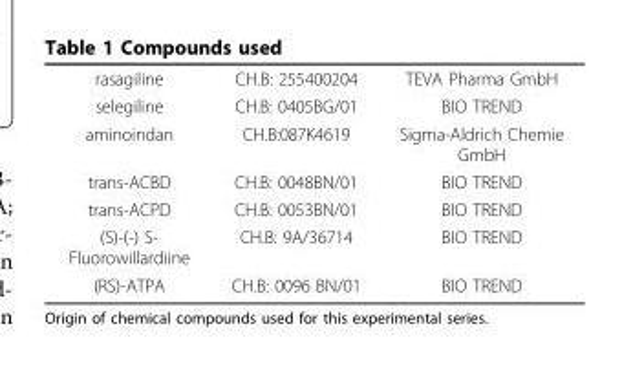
<table><tbody><tr><td>rasagiline</td><td>CH.B: 255400204</td><td>TEVA Pharma GmbH</td></tr><tr><td>selegiline</td><td>CH.B: 0405BG/01</td><td>BIO TREND</td></tr><tr><td>aminoindan</td><td>CH.B:087K4619</td><td>Sigma-Aldrich Chemie GmbH</td></tr><tr><td>trans-ACBD</td><td>CH.B: 0048BN/01</td><td>BIO TREND</td></tr><tr><td>trans-ACPD</td><td>CH.B: 0053BN/01</td><td>BIO TREND</td></tr><tr><td>(S)-(-) S- Fluorowillardiine</td><td>CH.B: 9A/36714</td><td>BIO TREND</td></tr><tr><td>(RS)-ATPA</td><td>CH.B: 0096 BN/01</td><td>BIO TREND</td></tr></tbody></table>